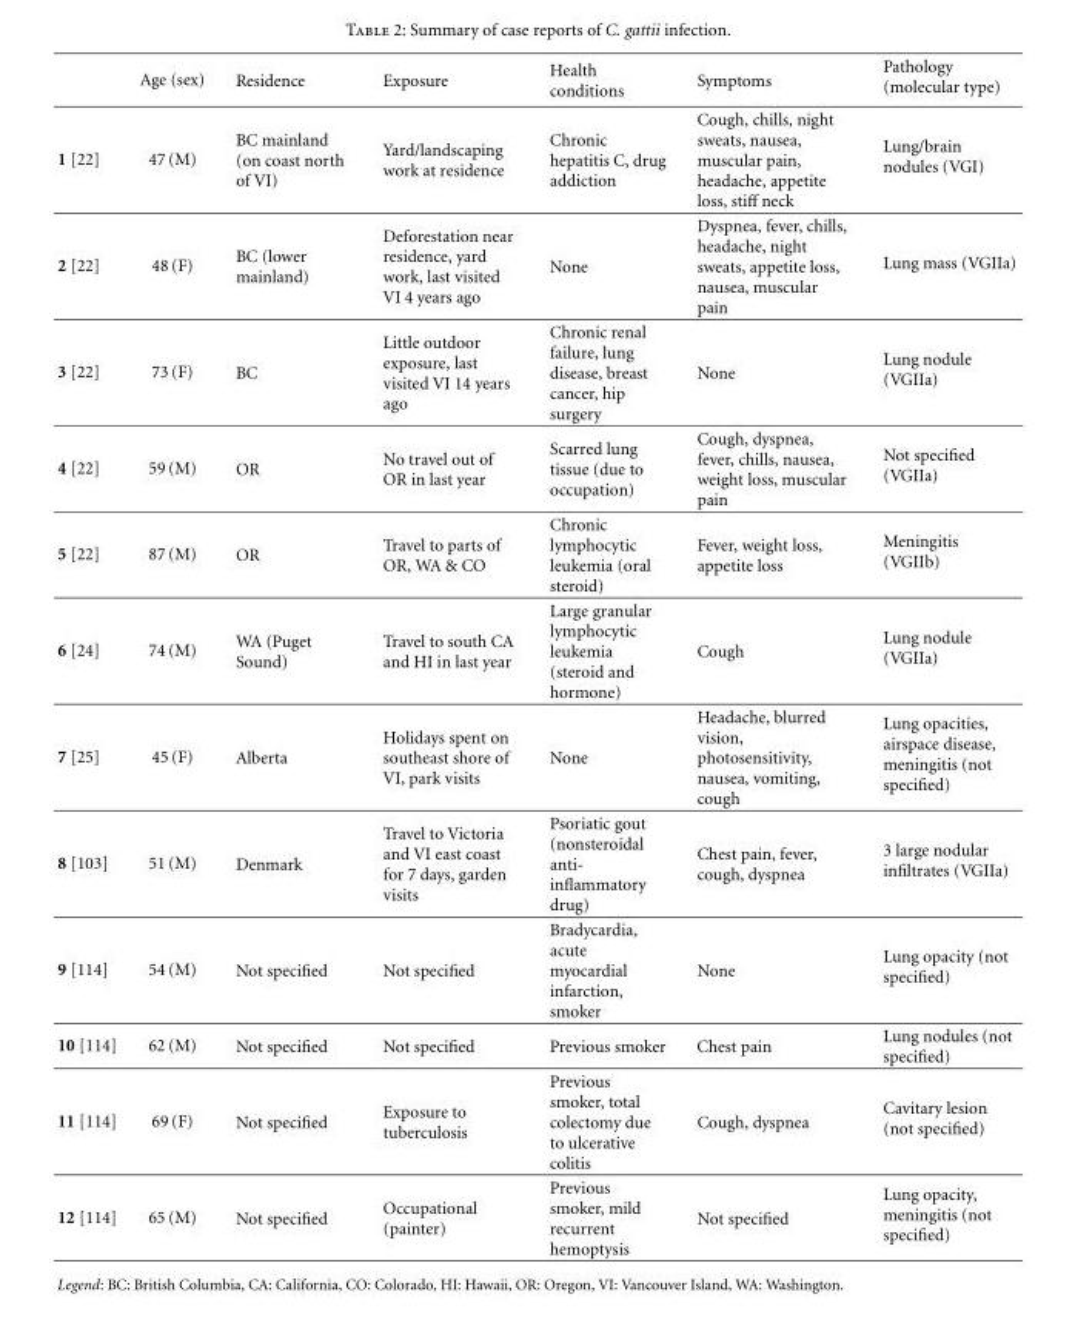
<table><thead><tr><td></td><td>Age (sex)</td><td>Residence</td><td>Exposure</td><td>Health conditions</td><td>Symptoms</td><td>Pathology (molecular type)</td></tr></thead><tbody><tr><td>1 [22]</td><td>47 (M)</td><td>BC mainland (on coast north of VI)</td><td>Yard/landscaping work at residence</td><td>Chronic hepatitis C, drug addiction</td><td>Cough, chills, night sweats, nausea, muscular pain, headache, appetite loss, stiff neck</td><td>Lung/brain nodules (VGI)</td></tr><tr><td>2 [22]</td><td>48 (F)</td><td>BC (lower mainland)</td><td>Deforestation near residence, yard work, last visited VI 4 years ago</td><td>None</td><td>Dyspnea, fever, chills, headache, night sweats, appetite loss, nausea, muscular pain</td><td>Lung mass (VGIIa)</td></tr><tr><td>3 [22]</td><td>73 (F)</td><td>BC</td><td>Little outdoor exposure, last visited VI 14 years ago</td><td>Chronic renal failure, lung disease, breast cancer, hip surgery</td><td>None</td><td>Lung nodule (VGIIa)</td></tr><tr><td>4 [22]</td><td>59 (M)</td><td>OR</td><td>No travel out of OR in last year</td><td>Scarred lung tissue (due to occupation)</td><td>Cough, dyspnea, fever, chills, nausea, weight loss, muscular pain</td><td>Not specified (VGIIa)</td></tr><tr><td>5 [22]</td><td>87 (M)</td><td>OR</td><td>Travel to parts of OR, WA &amp; CO</td><td>Chronic lymphocytic leukemia (oral steroid)</td><td>Fever, weight loss, appetite loss</td><td>Meningitis (VGIIb)</td></tr><tr><td>6 [24]</td><td>74 (M)</td><td>WA (Puget Sound)</td><td>Travel to south CA and HI in last year</td><td>Large granular lymphocytic leukemia (steroid and hormone)</td><td>Cough</td><td>Lung nodule (VGIIa)</td></tr><tr><td>7 [25]</td><td>45 (F)</td><td>Alberta</td><td>Holidays spent on southeast shore of VI, park visits</td><td>None</td><td>Headache, blurred vision, photosensitivity, nausea, vomiting, cough</td><td>Lung opacities, airspace disease, meningitis (not specified)</td></tr><tr><td>8 [103]</td><td>51 (M)</td><td>Denmark</td><td>Travel to Victoria and VI east coast for 7 days, garden visits</td><td>Psoriatic gout (nonsteroidal anti- inflammatory drug)</td><td>Chest pain, fever, cough, dyspnea</td><td>3 large nodular infiltrates (VGIIa)</td></tr><tr><td>9 [114]</td><td>54 (M)</td><td>Not specified</td><td>Not specified</td><td>Bradycardia, acute myocardial infarction, smoker</td><td>None</td><td>Lung opacity (not specified)</td></tr><tr><td>10 [114]</td><td>62 (M)</td><td>Not specified</td><td>Not specified</td><td>Previous smoker</td><td>Chest pain</td><td>Lung nodules (not specified)</td></tr><tr><td>11 [114]</td><td>69 (F)</td><td>Not specified</td><td>Exposure to tuberculosis</td><td>Previous smoker, total colectomy due to ulcerative colitis</td><td>Cough, dyspnea</td><td>Cavitary lesion (not specified)</td></tr><tr><td>12 [114]</td><td>65 (M)</td><td>Not specified</td><td>Occupational (painter)</td><td>Previous smoker, mild recurrent hemoptysis</td><td>Not specified</td><td>Lung opacity, meningitis (not specified)</td></tr></tbody></table>